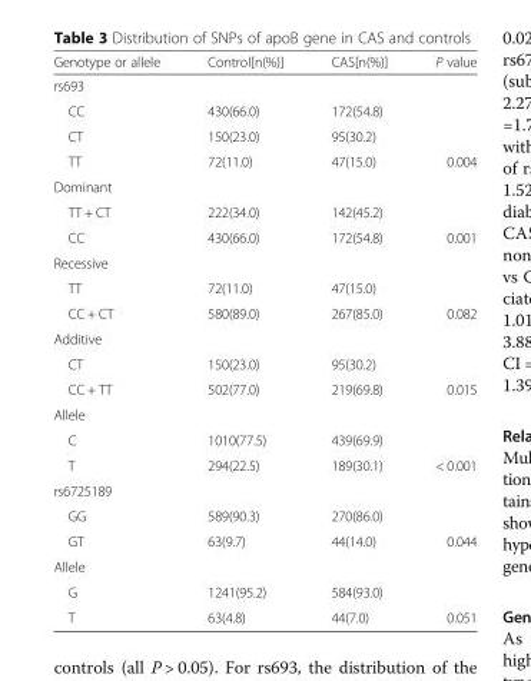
<table><thead><tr><td>Genotype or allele</td><td>Control[n(%)]</td><td>CAS[n(%)]</td><td>P value</td></tr></thead><tbody><tr><td colspan="4">rs693</td></tr><tr><td>CC</td><td>430(66.0)</td><td>172(54.8)</td><td></td></tr><tr><td>CT</td><td>150(23.0)</td><td>95(30.2)</td><td></td></tr><tr><td>TT</td><td>72(11.0)</td><td>47(15.0)</td><td>0.004</td></tr><tr><td colspan="4">Dominant</td></tr><tr><td>TT + CT</td><td>222(34.0)</td><td>142(45.2)</td><td></td></tr><tr><td>CC</td><td>430(66.0)</td><td>172(54.8)</td><td>0.001</td></tr><tr><td colspan="4">Recessive</td></tr><tr><td>TT</td><td>72(11.0)</td><td>47(15.0)</td><td></td></tr><tr><td>CC + CT</td><td>580(89.0)</td><td>267(85.0)</td><td>0.082</td></tr><tr><td colspan="4">Additive</td></tr><tr><td>CT</td><td>150(23.0)</td><td>95(30.2)</td><td></td></tr><tr><td>CC + TT</td><td>502(77.0)</td><td>219(69.8)</td><td>0.015</td></tr><tr><td colspan="4">Allele</td></tr><tr><td>C</td><td>1010(77.5)</td><td>439(69.9)</td><td></td></tr><tr><td>T</td><td>294(22.5)</td><td>189(30.1)</td><td>&lt; 0.001</td></tr><tr><td colspan="4">rs6725189</td></tr><tr><td>GG</td><td>589(90.3)</td><td>270(86.0)</td><td></td></tr><tr><td>GT</td><td>63(9.7)</td><td>44(14.0)</td><td>0.044</td></tr><tr><td colspan="4">Allele</td></tr><tr><td>G</td><td>1241(95.2)</td><td>584(93.0)</td><td></td></tr><tr><td>T</td><td>63(4.8)</td><td>44(7.0)</td><td>0.051</td></tr></tbody></table>